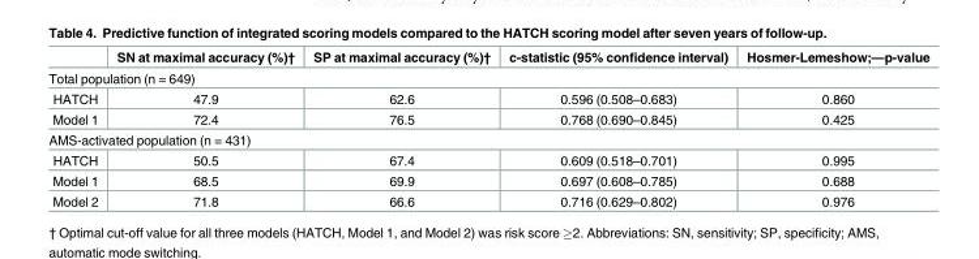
<table><thead><tr><td></td><td>SN at maximal accuracy (%)†</td><td>SP at maximal accuracy (%)†</td><td>c-statistic (95% confidence interval)</td><td>Hosmer-Lemeshow;—p-value</td></tr></thead><tbody><tr><td colspan="5">Total population (n = 649)</td></tr><tr><td>HATCH</td><td>47.9</td><td>62.6</td><td>0.596 (0.508–0.683)</td><td>0.860</td></tr><tr><td>Model 1</td><td>72.4</td><td>76.5</td><td>0.768 (0.690–0.845)</td><td>0.425</td></tr><tr><td colspan="5">AMS-activated population (n = 431)</td></tr><tr><td>HATCH</td><td>50.5</td><td>67.4</td><td>0.609 (0.518–0.701)</td><td>0.995</td></tr><tr><td>Model 1</td><td>68.5</td><td>69.9</td><td>0.697 (0.608–0.785)</td><td>0.688</td></tr><tr><td>Model 2</td><td>71.8</td><td>66.6</td><td>0.716 (0.629–0.802)</td><td>0.976</td></tr></tbody></table>